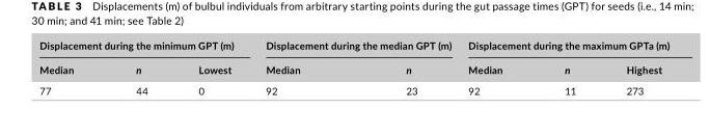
<table><thead><tr><td colspan="3">Displacement during the minimum GPT (m)</td><td colspan="2">Displacement during the median GPT (m)</td><td colspan="3">Displacement during the maximum GPTa (m)</td></tr><tr><td>Median</td><td>n</td><td>Lowest</td><td>Median</td><td>n</td><td>Median</td><td>n</td><td>Highest</td></tr></thead><tbody><tr><td>77</td><td>44</td><td>0</td><td>92</td><td>23</td><td>92</td><td>11</td><td>273</td></tr></tbody></table>